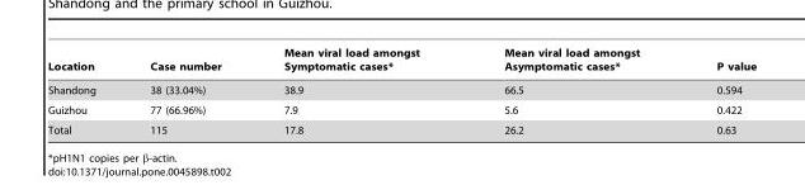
<table><thead><tr><td>Location</td><td>Case number</td><td>Mean viral load amongst Symptomatic cases*</td><td>Mean viral load amongst Asymptomatic cases*</td><td>P value</td></tr></thead><tbody><tr><td>Shandong</td><td>38 (33.04%)</td><td>38.9</td><td>66.5</td><td>0.594</td></tr><tr><td>Guizhou</td><td>77 (66.96%)</td><td>7.9</td><td>5.6</td><td>0.422</td></tr><tr><td>Total</td><td>115</td><td>17.8</td><td>26.2</td><td>0.63</td></tr></tbody></table>